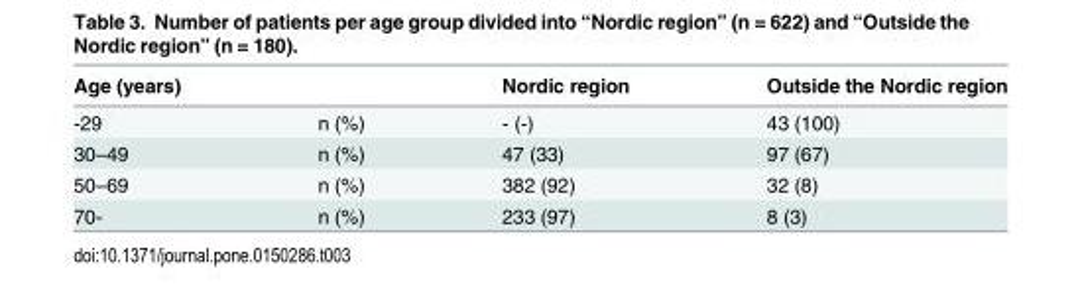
<table><thead><tr><td>Age (years)</td><td></td><td>Nordic region</td><td>Outside the Nordic region</td></tr></thead><tbody><tr><td>-29</td><td>n (%)</td><td>- (-)</td><td>43 (100)</td></tr><tr><td>30–49</td><td>n (%)</td><td>47 (33)</td><td>97 (67)</td></tr><tr><td>50–69</td><td>n (%)</td><td>382 (92)</td><td>32 (8)</td></tr><tr><td>70-</td><td>n (%)</td><td>233 (97)</td><td>8 (3)</td></tr></tbody></table>